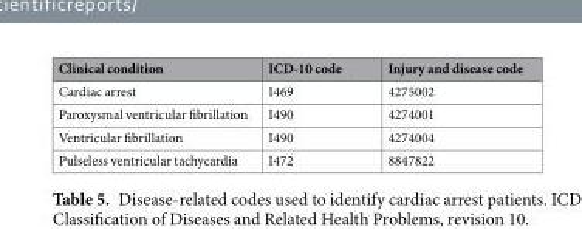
<table><thead><tr><td>Clinical condition</td><td>ICD-10 code</td><td>Injury and disease code</td></tr></thead><tbody><tr><td>Cardiac arrest</td><td>I469</td><td>4275002</td></tr><tr><td>Paroxysmal ventricular fibrillation</td><td>I490</td><td>4274001</td></tr><tr><td>Ventricular fibrillation</td><td>I490</td><td>4274004</td></tr><tr><td>Pulseless ventricular tachycardia</td><td>I472</td><td>8847822</td></tr></tbody></table>